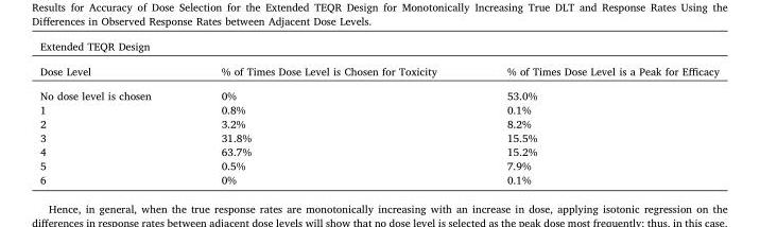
<table><thead><tr><td colspan="3">Extended TEQR Design</td></tr><tr><td>Dose Level</td><td>% of Times Dose Level is Chosen for Toxicity</td><td>% of Times Dose Level is a Peak for Efficacy</td></tr></thead><tbody><tr><td>No dose level is chosen</td><td>0%</td><td>53.0%</td></tr><tr><td>1</td><td>0.8%</td><td>0.1%</td></tr><tr><td>2</td><td>3.2%</td><td>8.2%</td></tr><tr><td>3</td><td>31.8%</td><td>15.5%</td></tr><tr><td>4</td><td>63.7%</td><td>15.2%</td></tr><tr><td>5</td><td>0.5%</td><td>7.9%</td></tr><tr><td>6</td><td>0%</td><td>0.1%</td></tr></tbody></table>